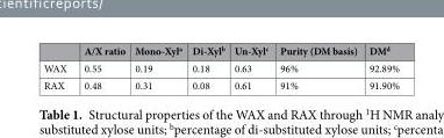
<table><thead><tr><td></td><td>A/X ratio</td><td>Mono-Xyl<sup>a</sup></td><td>Di-Xyl<sup>b</sup></td><td>Un-Xyl<sup>c</sup></td><td>Purity (DM basis)</td><td>DM<sup>d</sup></td></tr></thead><tbody><tr><td>WAX</td><td>0.55</td><td>0.19</td><td>0.18</td><td>0.63</td><td>96%</td><td>92.89%</td></tr><tr><td>RAX</td><td>0.48</td><td>0.31</td><td>0.08</td><td>0.61</td><td>91%</td><td>91.90%</td></tr></tbody></table>